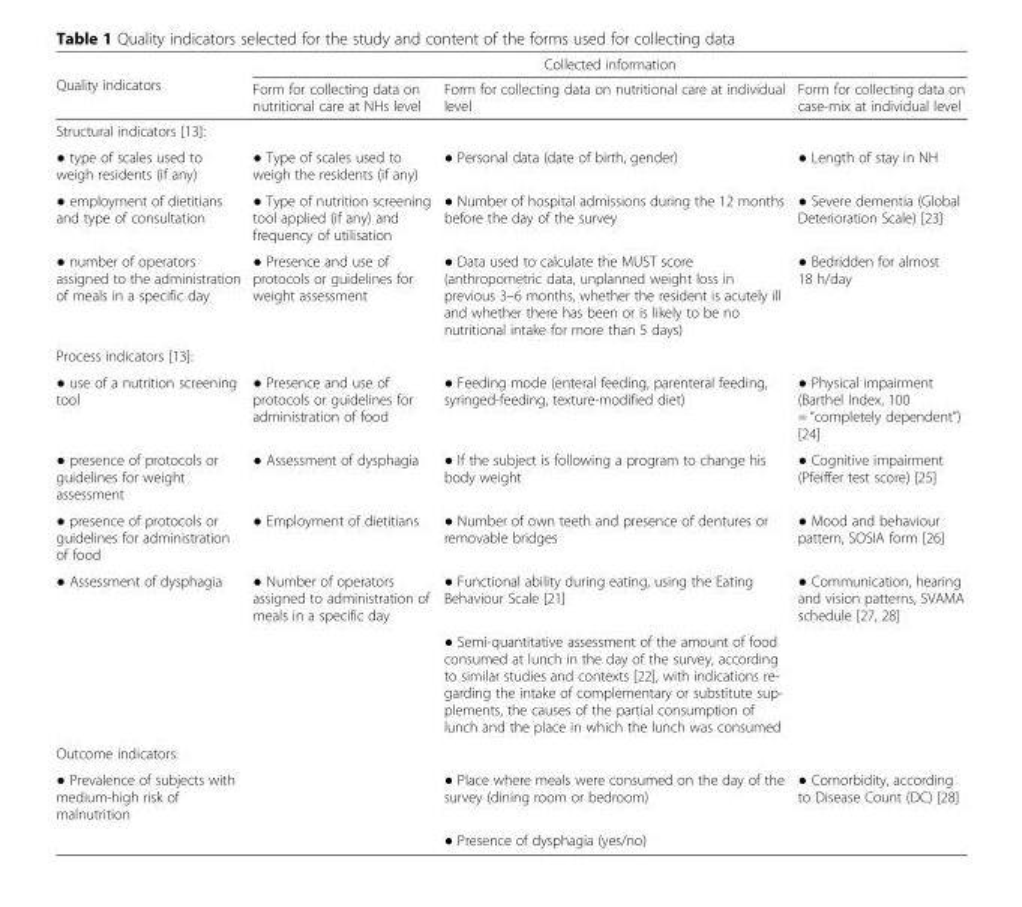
<table><thead><tr><td rowspan="2">Quality indicators</td><td colspan="3">Collected information</td></tr><tr><td>Form for collecting data on nutritional care at NHs level</td><td>Form for collecting data on nutritional care at individual level</td><td>Form for collecting data on case-mix at individual level</td></tr></thead><tbody><tr><td colspan="4">Structural indicators [13]:</td></tr><tr><td>● type of scales used to weigh residents (if any)</td><td>● Type of scales used to weigh the residents (if any)</td><td>● Personal data (date of birth, gender)</td><td>● Length of stay in NH</td></tr><tr><td>● employment of dietitians and type of consultation</td><td>● Type of nutrition screening tool applied (if any) and frequency of utilisation</td><td>● Number of hospital admissions during the 12 months before the day of the survey</td><td>● Severe dementia (Global Deterioration Scale) [23]</td></tr><tr><td>● number of operators assigned to the administration of meals in a specific day</td><td>● Presence and use of protocols or guidelines for weight assessment</td><td>● Data used to calculate the MUST score (anthropometric data, unplanned weight loss in previous 3–6 months, whether the resident is acutely ill and whether there has been or is likely to be no nutritional intake for more than 5 days)</td><td>● Bedridden for almost 18 h/day</td></tr><tr><td colspan="4">Process indicators [13]:</td></tr><tr><td>● use of a nutrition screening tool</td><td>● Presence and use of protocols or guidelines for administration of food</td><td>● Feeding mode (enteral feeding, parenteral feeding, syringed-feeding, texture-modified diet)</td><td>● Physical impairment (Barthel Index, 100 = “completely dependent”) [24]</td></tr><tr><td>● presence of protocols or guidelines for weight assessment</td><td>● Assessment of dysphagia</td><td>● If the subject is following a program to change his body weight</td><td>● Cognitive impairment (Pfeiffer test score) [25]</td></tr><tr><td>● presence of protocols or guidelines for administration of food</td><td>● Employment of dietitians</td><td>● Number of own teeth and presence of dentures or removable bridges</td><td>● Mood and behaviour pattern, SOSIA form [26]</td></tr><tr><td rowspan="2">● Assessment of dysphagia</td><td>● Number of operators assigned to administration of meals in a specific day</td><td>● Functional ability during eating, using the Eating Behaviour Scale [21]</td><td>● Communication, hearing and vision patterns, SVAMA schedule [27, 28]</td></tr><tr><td></td><td>● Semi-quantitative assessment of the amount of food consumed at lunch in the day of the survey, according to similar studies and contexts [22], with indications re- garding the intake of complementary or substitute sup- plements, the causes of the partial consumption of lunch and the place in which the lunch was consumed</td><td></td></tr><tr><td colspan="4">Outcome indicators:</td></tr><tr><td rowspan="2">● Prevalence of subjects with medium-high risk of malnutrition</td><td></td><td>● Place where meals were consumed on the day of the survey (dining room or bedroom)</td><td>● Comorbidity, according to Disease Count (DC) [28]</td></tr><tr><td></td><td>● Presence of dysphagia (yes/no)</td><td></td></tr></tbody></table>